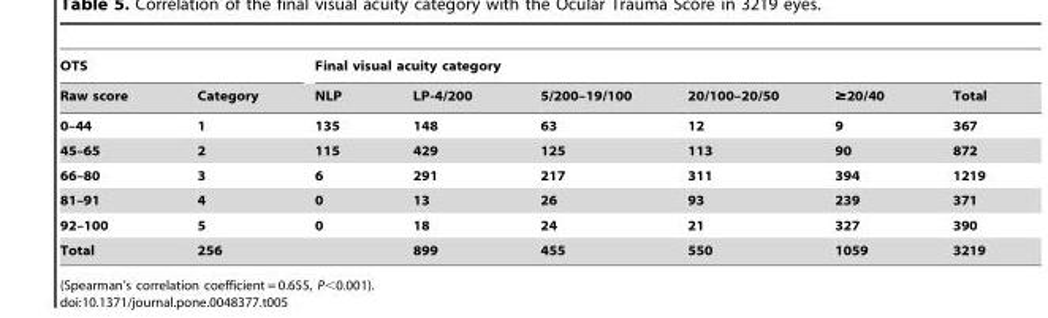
<table><thead><tr><td colspan="2">OTS</td><td colspan="6">Final visual acuity category</td></tr><tr><td>Raw score</td><td>Category</td><td>NLP</td><td>LP-4/200</td><td>5/200–19/100</td><td>20/100–20/50</td><td>≥20/40</td><td>Total</td></tr></thead><tbody><tr><td>0–44</td><td>1</td><td>135</td><td>148</td><td>63</td><td>12</td><td>9</td><td>367</td></tr><tr><td>45–65</td><td>2</td><td>115</td><td>429</td><td>125</td><td>113</td><td>90</td><td>872</td></tr><tr><td>66–80</td><td>3</td><td>6</td><td>291</td><td>217</td><td>311</td><td>394</td><td>1219</td></tr><tr><td>81–91</td><td>4</td><td>0</td><td>13</td><td>26</td><td>93</td><td>239</td><td>371</td></tr><tr><td>92–100</td><td>5</td><td>0</td><td>18</td><td>24</td><td>21</td><td>327</td><td>390</td></tr><tr><td>Total</td><td colspan="2">256</td><td>899</td><td>455</td><td>550</td><td>1059</td><td>3219</td></tr></tbody></table>